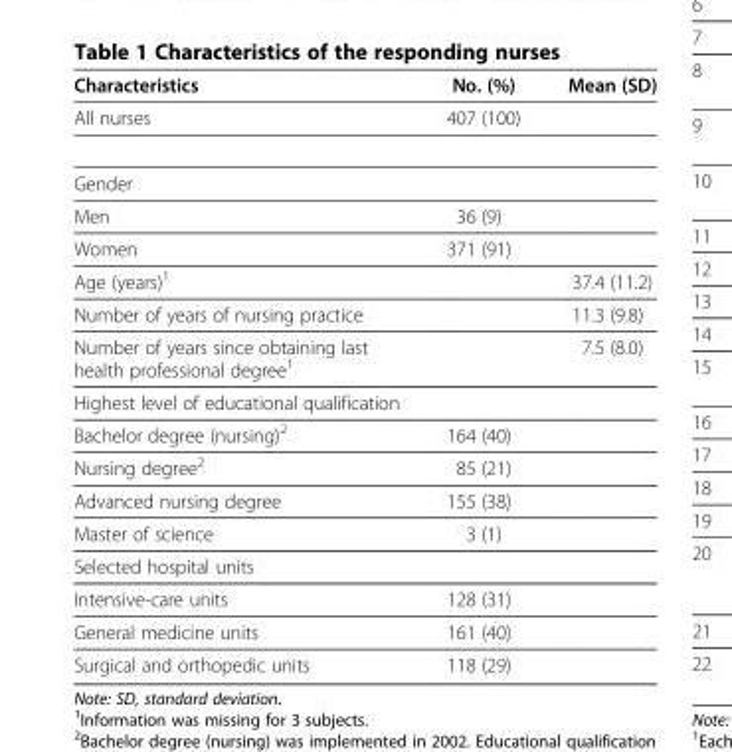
<table><thead><tr><td>Characteristics</td><td>No. (%)</td><td>Mean (SD)</td></tr></thead><tbody><tr><td>All nurses</td><td>407 (100)</td><td></td></tr><tr><td colspan="3">Gender</td></tr><tr><td>Men</td><td>36 (9)</td><td></td></tr><tr><td>Women</td><td>371 (91)</td><td></td></tr><tr><td>Age (years)<sup>1</sup></td><td></td><td>37.4 (11.2)</td></tr><tr><td>Number of years of nursing practice</td><td></td><td>11.3 (9.8)</td></tr><tr><td>Number of years since obtaining last health professional degree<sup>1</sup></td><td></td><td>7.5 (8.0)</td></tr><tr><td colspan="3">Highest level of educational qualification</td></tr><tr><td>Bachelor degree (nursing)<sup>2</sup></td><td>164 (40)</td><td></td></tr><tr><td>Nursing degree<sup>2</sup></td><td>85 (21)</td><td></td></tr><tr><td>Advanced nursing degree</td><td>155 (38)</td><td></td></tr><tr><td>Master of science</td><td>3 (1)</td><td></td></tr><tr><td colspan="3">Selected hospital units</td></tr><tr><td>Intensive-care units</td><td>128 (31)</td><td></td></tr><tr><td>General medicine units</td><td>161 (40)</td><td></td></tr><tr><td>Surgical and orthopedic units</td><td>118 (29)</td><td></td></tr></tbody></table>